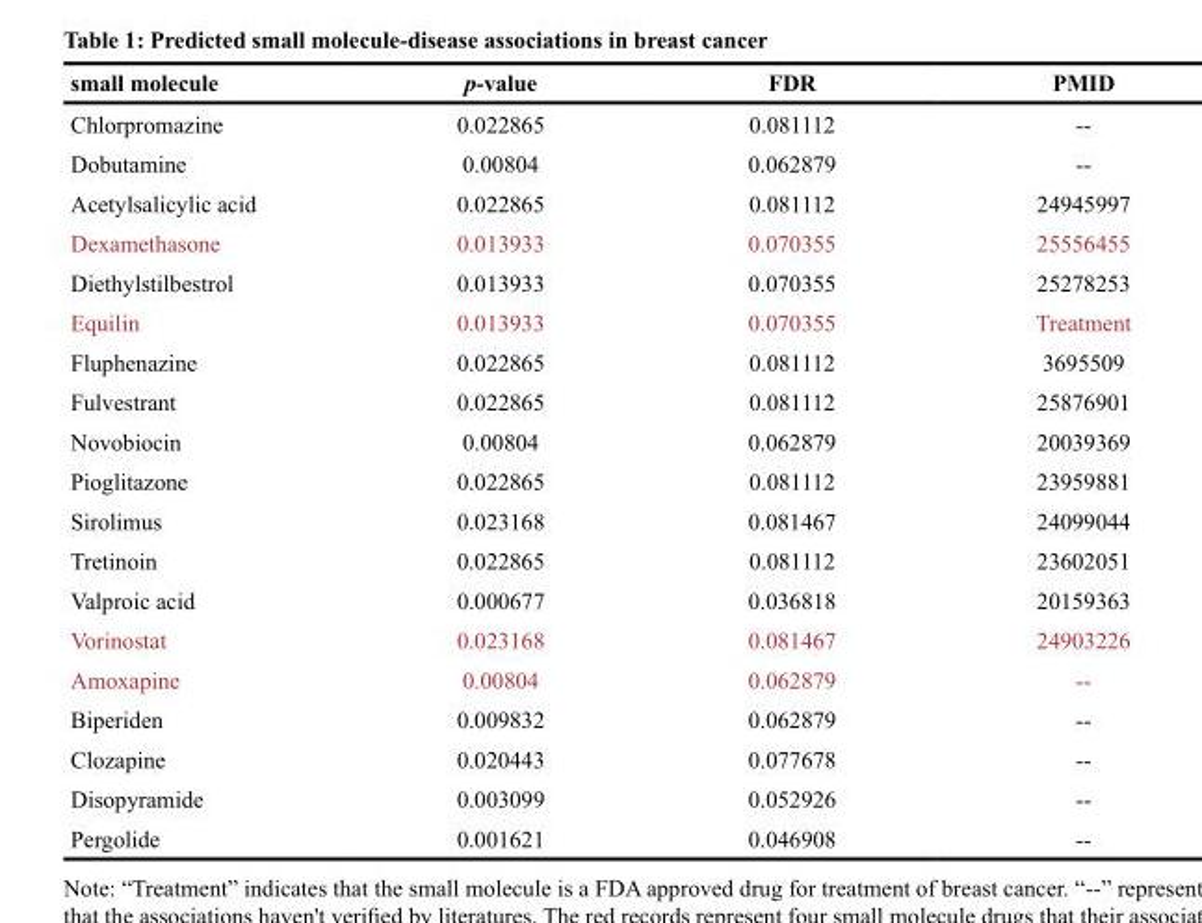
<table><thead><tr><td>small molecule</td><td>p-value</td><td>FDR</td><td>PMID</td></tr></thead><tbody><tr><td>Chlorpromazine</td><td>0.022865</td><td>0.081112</td><td>--</td></tr><tr><td>Dobutamine</td><td>0.00804</td><td>0.062879</td><td>--</td></tr><tr><td>Acetylsalicylic acid</td><td>0.022865</td><td>0.081112</td><td>24945997</td></tr><tr><td>Dexamethasone</td><td>0.013933</td><td>0.070355</td><td>25556455</td></tr><tr><td>Diethylstilbestrol</td><td>0.013933</td><td>0.070355</td><td>25278253</td></tr><tr><td>Equilin</td><td>0.013933</td><td>0.070355</td><td>Treatment</td></tr><tr><td>Fluphenazine</td><td>0.022865</td><td>0.081112</td><td>3695509</td></tr><tr><td>Fulvestrant</td><td>0.022865</td><td>0.081112</td><td>25876901</td></tr><tr><td>Novobiocin</td><td>0.00804</td><td>0.062879</td><td>20039369</td></tr><tr><td>Pioglitazone</td><td>0.022865</td><td>0.081112</td><td>23959881</td></tr><tr><td>Sirolimus</td><td>0.023168</td><td>0.081467</td><td>24099044</td></tr><tr><td>Tretinoin</td><td>0.022865</td><td>0.081112</td><td>23602051</td></tr><tr><td>Valproic acid</td><td>0.000677</td><td>0.036818</td><td>20159363</td></tr><tr><td>Vorinostat</td><td>0.023168</td><td>0.081467</td><td>24903226</td></tr><tr><td>Amoxapine</td><td>0.00804</td><td>0.062879</td><td>--</td></tr><tr><td>Biperiden</td><td>0.009832</td><td>0.062879</td><td>--</td></tr><tr><td>Clozapine</td><td>0.020443</td><td>0.077678</td><td>--</td></tr><tr><td>Disopyramide</td><td>0.003099</td><td>0.052926</td><td>--</td></tr><tr><td>Pergolide</td><td>0.001621</td><td>0.046908</td><td>--</td></tr></tbody></table>